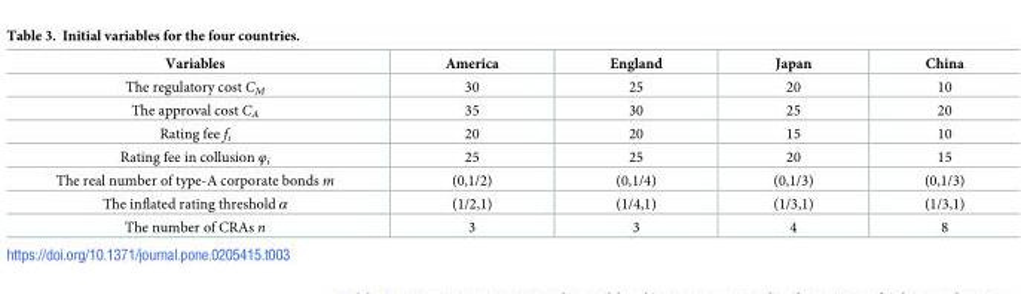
<table><thead><tr><td>Variables</td><td>America</td><td>England</td><td>Japan</td><td>China</td></tr></thead><tbody><tr><td>The regulatory cost C<sub>M</sub></td><td>30</td><td>25</td><td>20</td><td>10</td></tr><tr><td>The approval cost C<sub>A</sub></td><td>35</td><td>30</td><td>25</td><td>20</td></tr><tr><td>Rating fee f<sub>i</sub></td><td>20</td><td>20</td><td>15</td><td>10</td></tr><tr><td>Rating fee in collusion φ<sub>i</sub></td><td>25</td><td>25</td><td>20</td><td>15</td></tr><tr><td>The real number of type-A corporate bonds m</td><td>(0,1/2)</td><td>(0,1/4)</td><td>(0,1/3)</td><td>(0,1/3)</td></tr><tr><td>The inflated rating threshold α</td><td>(1/2,1)</td><td>(1/4,1)</td><td>(1/3,1)</td><td>(1/3,1)</td></tr><tr><td>The number of CRAs n</td><td>3</td><td>3</td><td>4</td><td>8</td></tr></tbody></table>